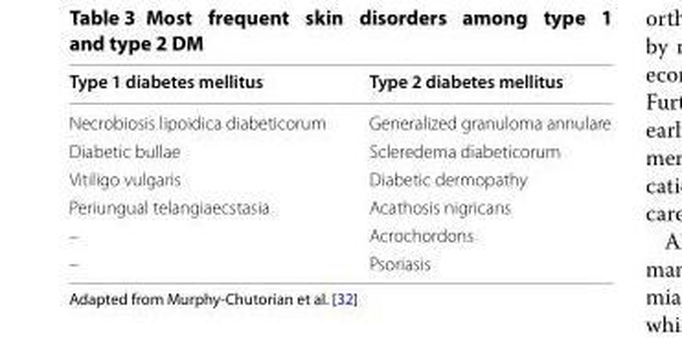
<table><thead><tr><td>Type 1 diabetes mellitus</td><td>Type 2 diabetes mellitus</td></tr></thead><tbody><tr><td>Necrobiosis lipoidica diabeticorum</td><td>Generalized granuloma annulare</td></tr><tr><td>Diabetic bullae</td><td>Scleredema diabeticorum</td></tr><tr><td>Vitiligo vulgaris</td><td>Diabetic dermopathy</td></tr><tr><td>Periungual telangiaecstasia</td><td>Acathosis nigricans</td></tr><tr><td>–</td><td>Acrochordons</td></tr><tr><td>–</td><td>Psoriasis</td></tr></tbody></table>